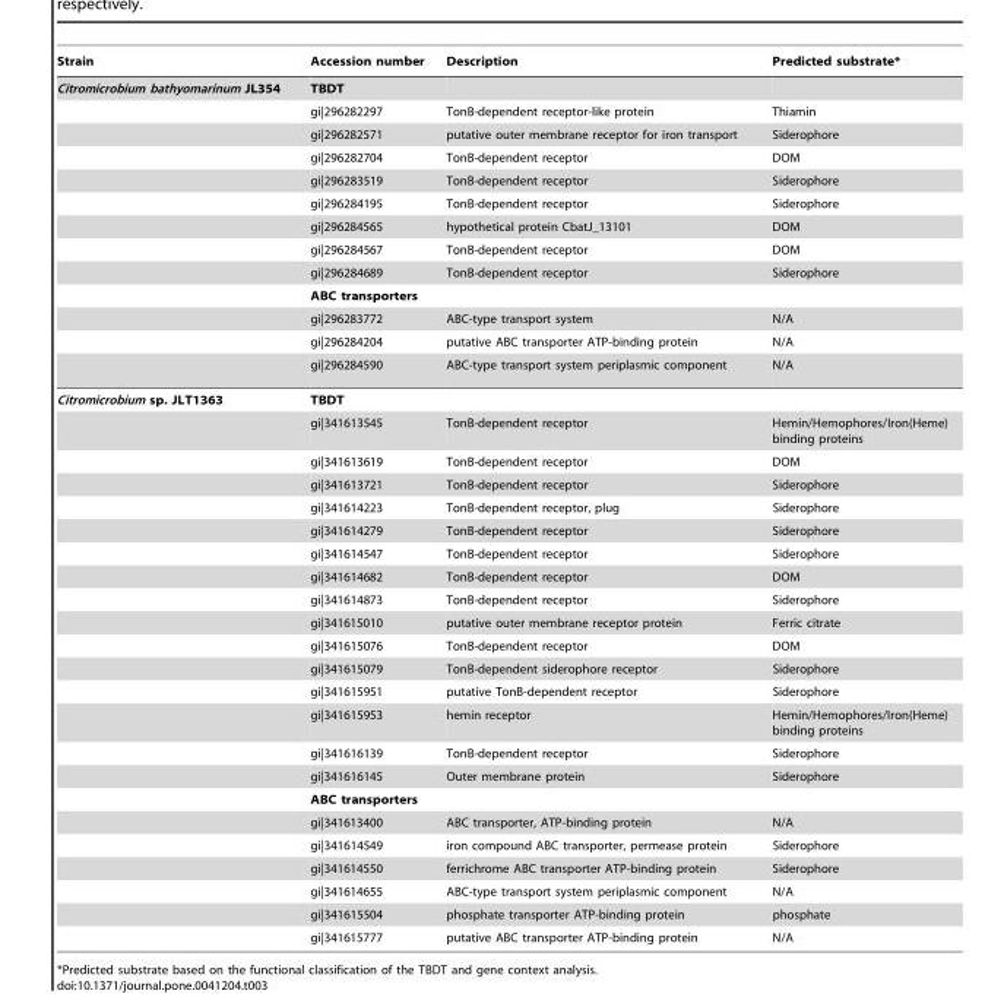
<table><thead><tr><td>Strain</td><td>Accession number</td><td>Description</td><td>Predicted substrate*</td></tr></thead><tbody><tr><td rowspan="13">Citromicrobium bathyomarinum JL354</td><td>TBDT</td><td></td><td></td></tr><tr><td>gi|296282297</td><td>TonB-dependent receptor-like protein</td><td>Thiamin</td></tr><tr><td>gi|296282571</td><td>putative outer membrane receptor for iron transport</td><td>Siderophore</td></tr><tr><td>gi|296282704</td><td>TonB-dependent receptor</td><td>DOM</td></tr><tr><td>gi|296283519</td><td>TonB-dependent receptor</td><td>Siderophore</td></tr><tr><td>gi|296284195</td><td>TonB-dependent receptor</td><td>Siderophore</td></tr><tr><td>gi|296284565</td><td>hypothetical protein CbatJ_13101</td><td>DOM</td></tr><tr><td>gi|296284567</td><td>TonB-dependent receptor</td><td>DOM</td></tr><tr><td>gi|296284689</td><td>TonB-dependent receptor</td><td>Siderophore</td></tr><tr><td>ABC transporters</td><td></td><td></td></tr><tr><td>gi|296283772</td><td>ABC-type transport system</td><td>N/A</td></tr><tr><td>gi|296284204</td><td>putative ABC transporter ATP-binding protein</td><td>N/A</td></tr><tr><td>gi|296284590</td><td>ABC-type transport system periplasmic component</td><td>N/A</td></tr><tr><td rowspan="23">Citromicrobium sp. JLT1363</td><td>TBDT</td><td></td><td></td></tr><tr><td>gi|341613545</td><td>TonB-dependent receptor</td><td>Hemin/Hemophores/Iron(Heme) binding proteins</td></tr><tr><td>gi|341613619</td><td>TonB-dependent receptor</td><td>DOM</td></tr><tr><td>gi|341613721</td><td>TonB-dependent receptor</td><td>Siderophore</td></tr><tr><td>gi|341614223</td><td>TonB-dependent receptor, plug</td><td>Siderophore</td></tr><tr><td>gi|341614279</td><td>TonB-dependent receptor</td><td>Siderophore</td></tr><tr><td>gi|341614547</td><td>TonB-dependent receptor</td><td>Siderophore</td></tr><tr><td>gi|341614682</td><td>TonB-dependent receptor</td><td>DOM</td></tr><tr><td>gi|341614873</td><td>TonB-dependent receptor</td><td>Siderophore</td></tr><tr><td>gi|341615010</td><td>putative outer membrane receptor protein</td><td>Ferric citrate</td></tr><tr><td>gi|341615076</td><td>TonB-dependent receptor</td><td>DOM</td></tr><tr><td>gi|341615079</td><td>TonB-dependent siderophore receptor</td><td>Siderophore</td></tr><tr><td>gi|341615951</td><td>putative TonB-dependent receptor</td><td>Siderophore</td></tr><tr><td>gi|341615953</td><td>hemin receptor</td><td>Hemin/Hemophores/Iron(Heme) binding proteins</td></tr><tr><td>gi|341616139</td><td>TonB-dependent receptor</td><td>Siderophore</td></tr><tr><td>gi|341616145</td><td>Outer membrane protein</td><td>Siderophore</td></tr><tr><td>ABC transporters</td><td></td><td></td></tr><tr><td>gi|341613400</td><td>ABC transporter, ATP-binding protein</td><td>N/A</td></tr><tr><td>gi|341614549</td><td>iron compound ABC transporter, permease protein</td><td>Siderophore</td></tr><tr><td>gi|341614550</td><td>ferrichrome ABC transporter ATP-binding protein</td><td>Siderophore</td></tr><tr><td>gi|341614655</td><td>ABC-type transport system periplasmic component</td><td>N/A</td></tr><tr><td>gi|341615504</td><td>phosphate transporter ATP-binding protein</td><td>phosphate</td></tr><tr><td>gi|341615777</td><td>putative ABC transporter ATP-binding protein</td><td>N/A</td></tr></tbody></table>